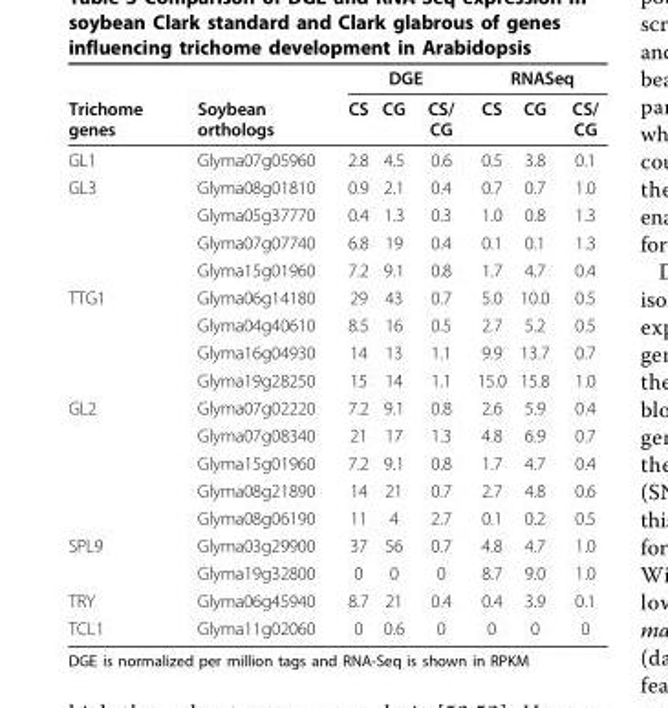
<table><thead><tr><td rowspan="2">Trichome genes</td><td rowspan="2">Soybean orthologs</td><td colspan="3">DGE</td><td colspan="3">RNASeq</td></tr><tr><td>CS</td><td>CG</td><td>CS/ CG</td><td>CS</td><td>CG</td><td>CS/ CG</td></tr></thead><tbody><tr><td>GL1</td><td>Glyma07g05960</td><td>2.8</td><td>4.5</td><td>0.6</td><td>0.5</td><td>3.8</td><td>0.1</td></tr><tr><td rowspan="4">GL3</td><td>Glyma08g01810</td><td>0.9</td><td>2.1</td><td>0.4</td><td>0.7</td><td>0.7</td><td>1.0</td></tr><tr><td>Glyma05g37770</td><td>0.4</td><td>1.3</td><td>0.3</td><td>1.0</td><td>0.8</td><td>1.3</td></tr><tr><td>Glyma07g07740</td><td>6.8</td><td>19</td><td>0.4</td><td>0.1</td><td>0.1</td><td>1.3</td></tr><tr><td>Glyma15g01960</td><td>7.2</td><td>9.1</td><td>0.8</td><td>1.7</td><td>4.7</td><td>0.4</td></tr><tr><td rowspan="4">TTG1</td><td>Glyma06g14180</td><td>29</td><td>43</td><td>0.7</td><td>5.0</td><td>10.0</td><td>0.5</td></tr><tr><td>Glyma04g40610</td><td>8.5</td><td>16</td><td>0.5</td><td>2.7</td><td>5.2</td><td>0.5</td></tr><tr><td>Glyma16g04930</td><td>14</td><td>13</td><td>1.1</td><td>9.9</td><td>13.7</td><td>0.7</td></tr><tr><td>Glyma19g28250</td><td>15</td><td>14</td><td>1.1</td><td>15.0</td><td>15.8</td><td>1.0</td></tr><tr><td rowspan="5">GL2</td><td>Glyma07g02220</td><td>7.2</td><td>9.1</td><td>0.8</td><td>2.6</td><td>5.9</td><td>0.4</td></tr><tr><td>Glyma07g08340</td><td>21</td><td>17</td><td>1.3</td><td>4.8</td><td>6.9</td><td>0.7</td></tr><tr><td>Glyma15g01960</td><td>7.2</td><td>9.1</td><td>0.8</td><td>1.7</td><td>4.7</td><td>0.4</td></tr><tr><td>Glyma08g21890</td><td>14</td><td>21</td><td>0.7</td><td>2.7</td><td>4.8</td><td>0.6</td></tr><tr><td>Glyma08g06190</td><td>11</td><td>4</td><td>2.7</td><td>0.1</td><td>0.2</td><td>0.5</td></tr><tr><td rowspan="2">SPL9</td><td>Glyma03g29900</td><td>37</td><td>56</td><td>0.7</td><td>4.8</td><td>4.7</td><td>1.0</td></tr><tr><td>Glyma19g32800</td><td>0</td><td>0</td><td>0</td><td>8.7</td><td>9.0</td><td>1.0</td></tr><tr><td>TRY</td><td>Glyma06g45940</td><td>8.7</td><td>21</td><td>0.4</td><td>0.4</td><td>3.9</td><td>0.1</td></tr><tr><td>TCL1</td><td>Glyma11g02060</td><td>0</td><td>0.6</td><td>0</td><td>0</td><td>0</td><td>0</td></tr></tbody></table>